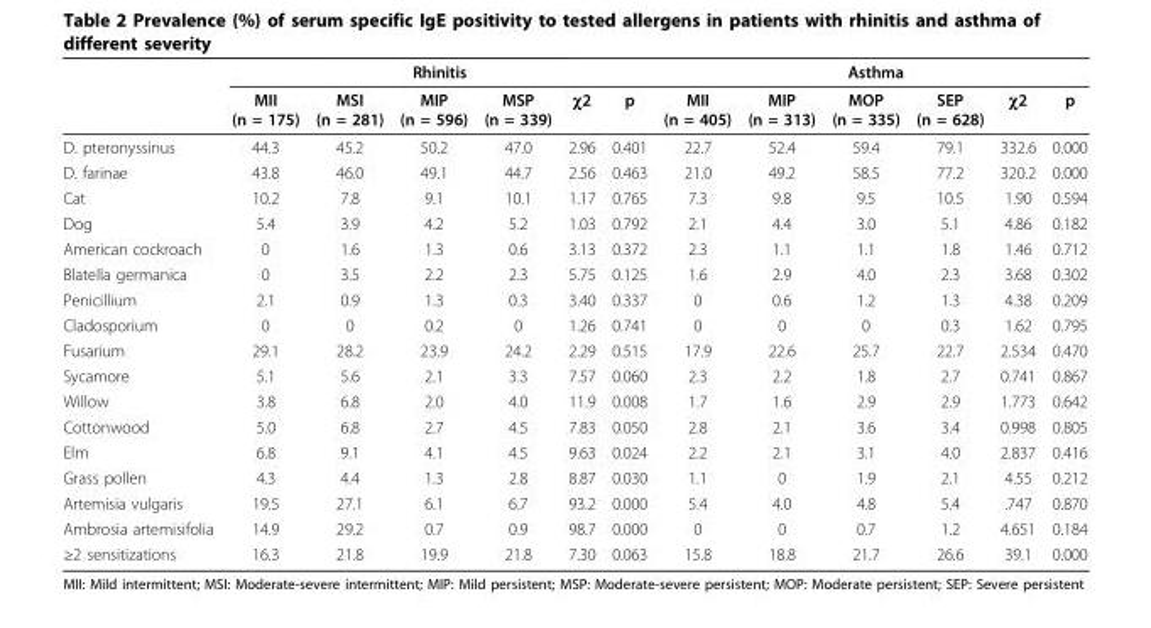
<table><thead><tr><td rowspan="2"></td><td colspan="6">Rhinitis</td><td colspan="6">Asthma</td></tr><tr><td>MII (n = 175)</td><td>MSI (n = 281)</td><td>MIP (n = 596)</td><td>MSP (n = 339)</td><td>χ2</td><td>p</td><td>MII (n = 405)</td><td>MIP (n = 313)</td><td>MOP (n = 335)</td><td>SEP (n = 628)</td><td>χ2</td><td>p</td></tr></thead><tbody><tr><td>D. pteronyssinus</td><td>44.3</td><td>45.2</td><td>50.2</td><td>47.0</td><td>2.96</td><td>0.401</td><td>22.7</td><td>52.4</td><td>59.4</td><td>79.1</td><td>332.6</td><td>0.000</td></tr><tr><td>D. farinae</td><td>43.8</td><td>46.0</td><td>49.1</td><td>44.7</td><td>2.56</td><td>0.463</td><td>21.0</td><td>49.2</td><td>58.5</td><td>77.2</td><td>320.2</td><td>0.000</td></tr><tr><td>Cat</td><td>10.2</td><td>7.8</td><td>9.1</td><td>10.1</td><td>1.17</td><td>0.765</td><td>7.3</td><td>9.8</td><td>9.5</td><td>10.5</td><td>1.90</td><td>0.594</td></tr><tr><td>Dog</td><td>5.4</td><td>3.9</td><td>4.2</td><td>5.2</td><td>1.03</td><td>0.792</td><td>2.1</td><td>4.4</td><td>3.0</td><td>5.1</td><td>4.86</td><td>0.182</td></tr><tr><td>American cockroach</td><td>0</td><td>1.6</td><td>1.3</td><td>0.6</td><td>3.13</td><td>0.372</td><td>2.3</td><td>1.1</td><td>1.1</td><td>1.8</td><td>1.46</td><td>0.712</td></tr><tr><td>Blatella germanica</td><td>0</td><td>3.5</td><td>2.2</td><td>2.3</td><td>5.75</td><td>0.125</td><td>1.6</td><td>2.9</td><td>4.0</td><td>2.3</td><td>3.68</td><td>0.302</td></tr><tr><td>Penicillium</td><td>2.1</td><td>0.9</td><td>1.3</td><td>0.3</td><td>3.40</td><td>0.337</td><td>0</td><td>0.6</td><td>1.2</td><td>1.3</td><td>4.38</td><td>0.209</td></tr><tr><td>Cladosporium</td><td>0</td><td>0</td><td>0.2</td><td>0</td><td>1.26</td><td>0.741</td><td>0</td><td>0</td><td>0</td><td>0.3</td><td>1.62</td><td>0.795</td></tr><tr><td>Fusarium</td><td>29.1</td><td>28.2</td><td>23.9</td><td>24.2</td><td>2.29</td><td>0.515</td><td>17.9</td><td>22.6</td><td>25.7</td><td>22.7</td><td>2.534</td><td>0.470</td></tr><tr><td>Sycamore</td><td>5.1</td><td>5.6</td><td>2.1</td><td>3.3</td><td>7.57</td><td>0.060</td><td>2.3</td><td>2.2</td><td>1.8</td><td>2.7</td><td>0.741</td><td>0.867</td></tr><tr><td>Willow</td><td>3.8</td><td>6.8</td><td>2.0</td><td>4.0</td><td>11.9</td><td>0.008</td><td>1.7</td><td>1.6</td><td>2.9</td><td>2.9</td><td>1.773</td><td>0.642</td></tr><tr><td>Cottonwood</td><td>5.0</td><td>6.8</td><td>2.7</td><td>4.5</td><td>7.83</td><td>0.050</td><td>2.8</td><td>2.1</td><td>3.6</td><td>3.4</td><td>0.998</td><td>0.805</td></tr><tr><td>Elm</td><td>6.8</td><td>9.1</td><td>4.1</td><td>4.5</td><td>9.63</td><td>0.024</td><td>2.2</td><td>2.1</td><td>3.1</td><td>4.0</td><td>2.837</td><td>0.416</td></tr><tr><td>Grass pollen</td><td>4.3</td><td>4.4</td><td>1.3</td><td>2.8</td><td>8.87</td><td>0.030</td><td>1.1</td><td>0</td><td>1.9</td><td>2.1</td><td>4.55</td><td>0.212</td></tr><tr><td>Artemisia vulgaris</td><td>19.5</td><td>27.1</td><td>6.1</td><td>6.7</td><td>93.2</td><td>0.000</td><td>5.4</td><td>4.0</td><td>4.8</td><td>5.4</td><td>.747</td><td>0.870</td></tr><tr><td>Ambrosia artemisifolia</td><td>14.9</td><td>29.2</td><td>0.7</td><td>0.9</td><td>98.7</td><td>0.000</td><td>0</td><td>0</td><td>0.7</td><td>1.2</td><td>4.651</td><td>0.184</td></tr><tr><td>≥2 sensitizations</td><td>16.3</td><td>21.8</td><td>19.9</td><td>21.8</td><td>7.30</td><td>0.063</td><td>15.8</td><td>18.8</td><td>21.7</td><td>26.6</td><td>39.1</td><td>0.000</td></tr></tbody></table>